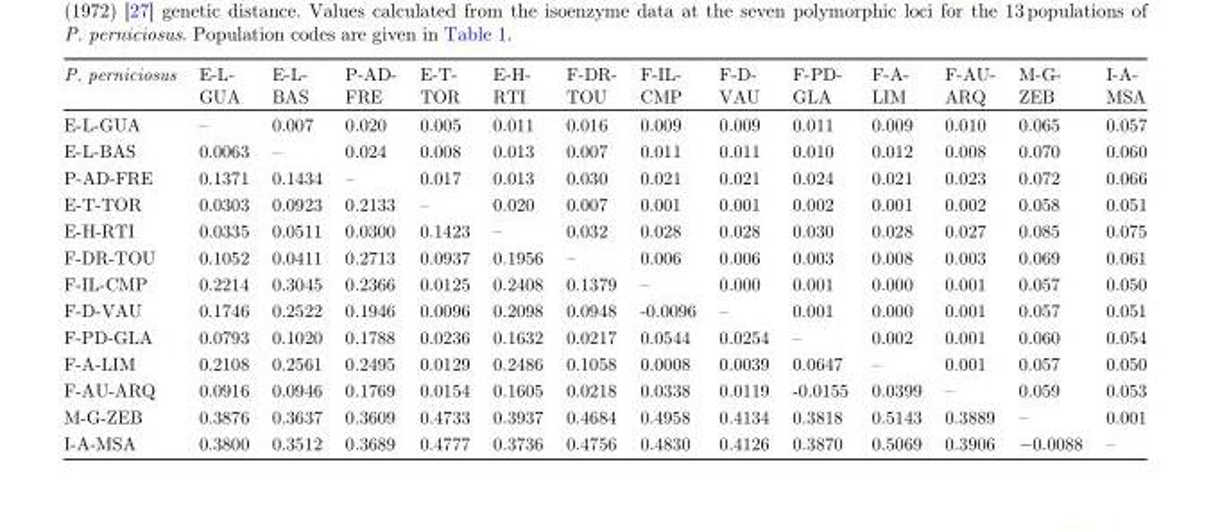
<table><thead><tr><td>P. perniciosus</td><td>E-L- GUA</td><td>E-L- BAS</td><td>P-AD- FRE</td><td>E-T- TOR</td><td>E-H- RTI</td><td>F-DR- TOU</td><td>F-IL- CMP</td><td>F-D- VAU</td><td>F-PD- GLA</td><td>F-A- LIM</td><td>F-AU- ARQ</td><td>M-G- ZEB</td><td>I-A- MSA</td></tr></thead><tbody><tr><td>E-L-GUA</td><td>–</td><td>0.007</td><td>0.020</td><td>0.005</td><td>0.011</td><td>0.016</td><td>0.009</td><td>0.009</td><td>0.011</td><td>0.009</td><td>0.010</td><td>0.065</td><td>0.057</td></tr><tr><td>E-L-BAS</td><td>0.0063</td><td>–</td><td>0.024</td><td>0.008</td><td>0.013</td><td>0.007</td><td>0.011</td><td>0.011</td><td>0.010</td><td>0.012</td><td>0.008</td><td>0.070</td><td>0.060</td></tr><tr><td>P-AD-FRE</td><td>0.1371</td><td>0.1434</td><td>–</td><td>0.017</td><td>0.013</td><td>0.030</td><td>0.021</td><td>0.021</td><td>0.024</td><td>0.021</td><td>0.023</td><td>0.072</td><td>0.066</td></tr><tr><td>E-T-TOR</td><td>0.0303</td><td>0.0923</td><td>0.2133</td><td>–</td><td>0.020</td><td>0.007</td><td>0.001</td><td>0.001</td><td>0.002</td><td>0.001</td><td>0.002</td><td>0.058</td><td>0.051</td></tr><tr><td>E-H-RTI</td><td>0.0335</td><td>0.0511</td><td>0.0300</td><td>0.1423</td><td>–</td><td>0.032</td><td>0.028</td><td>0.028</td><td>0.030</td><td>0.028</td><td>0.027</td><td>0.085</td><td>0.075</td></tr><tr><td>F-DR-TOU</td><td>0.1052</td><td>0.0411</td><td>0.2713</td><td>0.0937</td><td>0.1956</td><td>–</td><td>0.006</td><td>0.006</td><td>0.003</td><td>0.008</td><td>0.003</td><td>0.069</td><td>0.061</td></tr><tr><td>F-IL-CMP</td><td>0.2214</td><td>0.3045</td><td>0.2366</td><td>0.0125</td><td>0.2408</td><td>0.1379</td><td>–</td><td>0.000</td><td>0.001</td><td>0.000</td><td>0.001</td><td>0.057</td><td>0.050</td></tr><tr><td>F-D-VAU</td><td>0.1746</td><td>0.2522</td><td>0.1946</td><td>0.0096</td><td>0.2098</td><td>0.0948</td><td>-0.0096</td><td>–</td><td>0.001</td><td>0.000</td><td>0.001</td><td>0.057</td><td>0.051</td></tr><tr><td>F-PD-GLA</td><td>0.0793</td><td>0.1020</td><td>0.1788</td><td>0.0236</td><td>0.1632</td><td>0.0217</td><td>0.0544</td><td>0.0254</td><td>–</td><td>0.002</td><td>0.001</td><td>0.060</td><td>0.054</td></tr><tr><td>F-A-LIM</td><td>0.2108</td><td>0.2561</td><td>0.2495</td><td>0.0129</td><td>0.2486</td><td>0.1058</td><td>0.0008</td><td>0.0039</td><td>0.0647</td><td>–</td><td>0.001</td><td>0.057</td><td>0.050</td></tr><tr><td>F-AU-ARQ</td><td>0.0916</td><td>0.0946</td><td>0.1769</td><td>0.0154</td><td>0.1605</td><td>0.0218</td><td>0.0338</td><td>0.0119</td><td>-0.0155</td><td>0.0399</td><td>–</td><td>0.059</td><td>0.053</td></tr><tr><td>M-G-ZEB</td><td>0.3876</td><td>0.3637</td><td>0.3609</td><td>0.4733</td><td>0.3937</td><td>0.4684</td><td>0.4958</td><td>0.4134</td><td>0.3818</td><td>0.5143</td><td>0.3889</td><td>–</td><td>0.001</td></tr><tr><td>I-A-MSA</td><td>0.3800</td><td>0.3512</td><td>0.3689</td><td>0.4777</td><td>0.3736</td><td>0.4756</td><td>0.4830</td><td>0.4126</td><td>0.3870</td><td>0.5069</td><td>0.3906</td><td>−0.0088</td><td>–</td></tr></tbody></table>